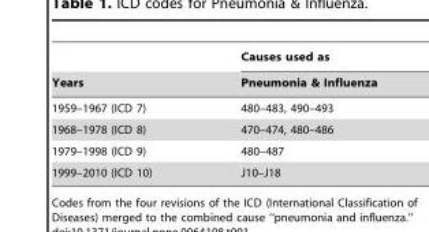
<table><thead><tr><td rowspan="2">Years</td><td rowspan="2">Causes used as Pneumonia &amp; Influenza</td></tr><tr></tr></thead><tbody><tr><td>1959–1967 (ICD 7)</td><td>480–483, 490–493</td></tr><tr><td>1968–1978 (ICD 8)</td><td>470–474, 480–486</td></tr><tr><td>1979–1998 (ICD 9)</td><td>480–487</td></tr><tr><td>1999–2010 (ICD 10)</td><td>J10–J18</td></tr></tbody></table>